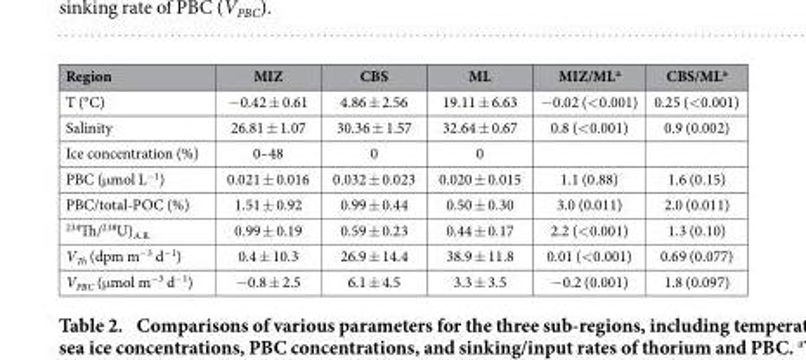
<table><thead><tr><td>Region</td><td>MIZ</td><td>CBS</td><td>ML</td><td>MIZ/ML<sup>a</sup></td><td>CBS/ML<sup>a</sup></td></tr></thead><tbody><tr><td>T (°C)</td><td>− 0.42 ± 0.61</td><td>4.86 ± 2.56</td><td>19.11 ± 6.63</td><td>− 0.02 (&lt; 0.001)</td><td>0.25 (&lt; 0.001)</td></tr><tr><td>Salinity</td><td>26.81 ± 1.07</td><td>30.36 ± 1.57</td><td>32.64 ± 0.67</td><td>0.8 (&lt; 0.001)</td><td>0.9 (0.002)</td></tr><tr><td>Ice concentration (%)</td><td>0–48</td><td>0</td><td>0</td><td></td><td></td></tr><tr><td>PBC (μ mol L<sup>−1</sup>)</td><td>0.021 ± 0.016</td><td>0.032 ± 0.023</td><td>0.020 ± 0.015</td><td>1.1 (0.88)</td><td>1.6 (0.15)</td></tr><tr><td>PBC/total-POC (%)</td><td>1.51 ± 0.92</td><td>0.99 ± 0.44</td><td>0.50 ± 0.30</td><td>3.0 (0.011)</td><td>2.0 (0.011)</td></tr><tr><td><sup>234</sup>Th/<sup>238</sup>U)<sub>A.R.</sub></td><td>0.99 ± 0.19</td><td>0.59 ± 0.23</td><td>0.44 ± 0.17</td><td>2.2 (&lt; 0.001)</td><td>1.3 (0.10)</td></tr><tr><td>V<sub>Th</sub> (dpm m<sup>−3</sup> d<sup>−1</sup>)</td><td>0.4 ± 10.3</td><td>26.9 ± 14.4</td><td>38.9 ± 11.8</td><td>0.01 (&lt; 0.001)</td><td>0.69 (0.077)</td></tr><tr><td>V<sub>PBC</sub> (μ mol m<sup>−3</sup> d<sup>−1</sup>)</td><td>− 0.8 ± 2.5</td><td>6.1 ± 4.5</td><td>3.3 ± 3.5</td><td>− 0.2 (0.001)</td><td>1.8 (0.097)</td></tr></tbody></table>